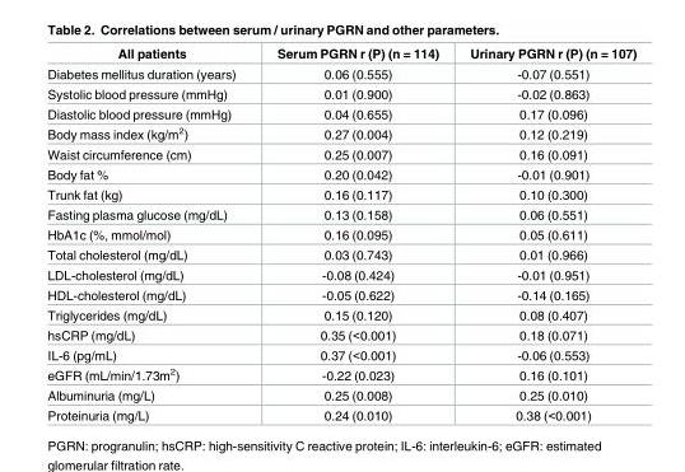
<table><thead><tr><td>All patients</td><td>Serum PGRN r (P) (n = 114)</td><td>Urinary PGRN r (P) (n = 107)</td></tr></thead><tbody><tr><td>Diabetes mellitus duration (years)</td><td>0.06 (0.555)</td><td>-0.07 (0.551)</td></tr><tr><td>Systolic blood pressure (mmHg)</td><td>0.01 (0.900)</td><td>-0.02 (0.863)</td></tr><tr><td>Diastolic blood pressure (mmHg)</td><td>0.04 (0.655)</td><td>0.17 (0.096)</td></tr><tr><td>Body mass index (kg/m<sup>2</sup>)</td><td>0.27 (0.004)</td><td>0.12 (0.219)</td></tr><tr><td>Waist circumference (cm)</td><td>0.25 (0.007)</td><td>0.16 (0.091)</td></tr><tr><td>Body fat %</td><td>0.20 (0.042)</td><td>-0.01 (0.901)</td></tr><tr><td>Trunk fat (kg)</td><td>0.16 (0.117)</td><td>0.10 (0.300)</td></tr><tr><td>Fasting plasma glucose (mg/dL)</td><td>0.13 (0.158)</td><td>0.06 (0.551)</td></tr><tr><td>HbA1c (%, mmol/mol)</td><td>0.16 (0.095)</td><td>0.05 (0.611)</td></tr><tr><td>Total cholesterol (mg/dL)</td><td>0.03 (0.743)</td><td>0.01 (0.966)</td></tr><tr><td>LDL-cholesterol (mg/dL)</td><td>-0.08 (0.424)</td><td>-0.01 (0.951)</td></tr><tr><td>HDL-cholesterol (mg/dL)</td><td>-0.05 (0.622)</td><td>-0.14 (0.165)</td></tr><tr><td>Triglycerides (mg/dL)</td><td>0.15 (0.120)</td><td>0.08 (0.407)</td></tr><tr><td>hsCRP (mg/dL)</td><td>0.35 (&lt;0.001)</td><td>0.18 (0.071)</td></tr><tr><td>IL-6 (pg/mL)</td><td>0.37 (&lt;0.001)</td><td>-0.06 (0.553)</td></tr><tr><td>eGFR (mL/min/1.73m<sup>2</sup>)</td><td>-0.22 (0.023)</td><td>0.16 (0.101)</td></tr><tr><td>Albuminuria (mg/L)</td><td>0.25 (0.008)</td><td>0.25 (0.010)</td></tr><tr><td>Proteinuria (mg/L)</td><td>0.24 (0.010)</td><td>0.38 (&lt;0.001)</td></tr></tbody></table>